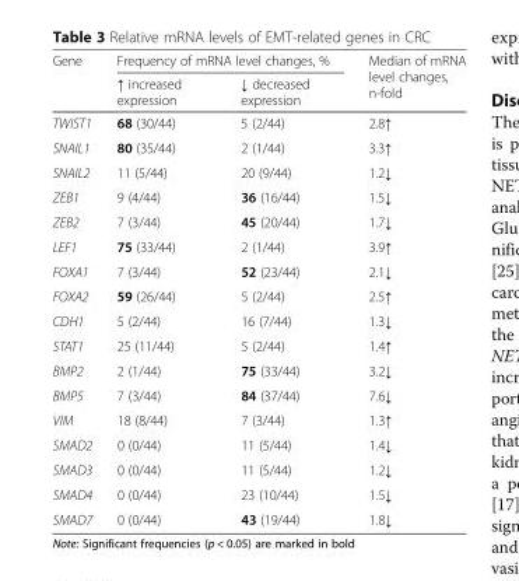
<table><thead><tr><td rowspan="2">Gene</td><td colspan="2">Frequency of mRNA level changes, %</td><td rowspan="2">Median of mRNA level changes, n-fold</td></tr><tr><td>↑ increased expression</td><td>↓ decreased expression</td></tr></thead><tbody><tr><td>TWIST1</td><td>68 (30/44)</td><td>5 (2/44)</td><td>2.8↑</td></tr><tr><td>SNAIL1</td><td>80 (35/44)</td><td>2 (1/44)</td><td>3.3↑</td></tr><tr><td>SNAIL2</td><td>11 (5/44)</td><td>20 (9/44)</td><td>1.2↓</td></tr><tr><td>ZEB1</td><td>9 (4/44)</td><td>36 (16/44)</td><td>1.5↓</td></tr><tr><td>ZEB2</td><td>7 (3/44)</td><td>45 (20/44)</td><td>1.7↓</td></tr><tr><td>LEF1</td><td>75 (33/44)</td><td>2 (1/44)</td><td>3.9↑</td></tr><tr><td>FOXA1</td><td>7 (3/44)</td><td>52 (23/44)</td><td>2.1↓</td></tr><tr><td>FOXA2</td><td>59 (26/44)</td><td>5 (2/44)</td><td>2.5↑</td></tr><tr><td>CDH1</td><td>5 (2/44)</td><td>16 (7/44)</td><td>1.3↓</td></tr><tr><td>STAT1</td><td>25 (11/44)</td><td>5 (2/44)</td><td>1.4↑</td></tr><tr><td>BMP2</td><td>2 (1/44)</td><td>75 (33/44)</td><td>3.2↓</td></tr><tr><td>BMP5</td><td>7 (3/44)</td><td>84 (37/44)</td><td>7.6↓</td></tr><tr><td>VIM</td><td>18 (8/44)</td><td>7 (3/44)</td><td>1.3↑</td></tr><tr><td>SMAD2</td><td>0 (0/44)</td><td>11 (5/44)</td><td>1.4↓</td></tr><tr><td>SMAD3</td><td>0 (0/44)</td><td>11 (5/44)</td><td>1.2↓</td></tr><tr><td>SMAD4</td><td>0 (0/44)</td><td>23 (10/44)</td><td>1.5↓</td></tr><tr><td>SMAD7</td><td>0 (0/44)</td><td>43 (19/44)</td><td>1.8↓</td></tr></tbody></table>